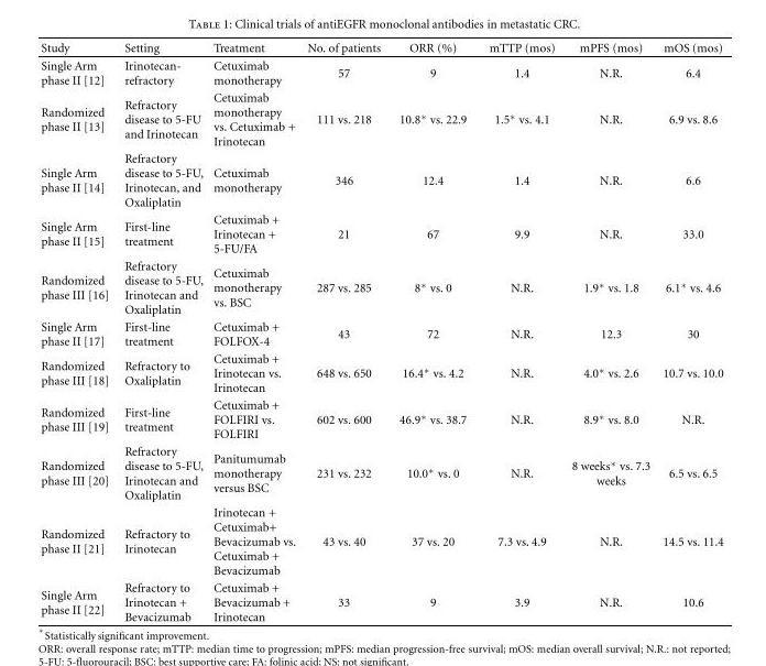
<table><thead><tr><td>Study</td><td>Setting</td><td>Treatment</td><td>No. of patients</td><td>ORR (%)</td><td>mTTP (mos)</td><td>mPFS (mos)</td><td>mOS (mos)</td></tr></thead><tbody><tr><td>Single Arm phase II [12]</td><td>Irinotecan- refractory</td><td>Cetuximab monotherapy</td><td>57</td><td>9</td><td>1.4</td><td>N.R.</td><td>6.4</td></tr><tr><td>Randomized phase II [13]</td><td>Refractory disease to 5-FU and Irinotecan</td><td>Cetuximab monotherapy vs. Cetuximab + Irinotecan</td><td>111 vs. 218</td><td>10.8∗ vs. 22.9</td><td>1.5∗ vs. 4.1</td><td>N.R.</td><td>6.9 vs. 8.6</td></tr><tr><td>Single Arm phase II [14]</td><td>Refractory disease to 5-FU, Irinotecan, and Oxaliplatin</td><td>Cetuximab monotherapy</td><td>346</td><td>12.4</td><td>1.4</td><td>N.R.</td><td>6.6</td></tr><tr><td>Single Arm phase II [15]</td><td>First-line treatment</td><td>Cetuximab + Irinotecan + 5-FU/FA</td><td>21</td><td>67</td><td>9.9</td><td>N.R.</td><td>33.0</td></tr><tr><td>Randomized phase III [16]</td><td>Refractory disease to 5-FU, Irinotecan and Oxaliplatin</td><td>Cetuximab monotherapy vs. BSC</td><td>287 vs. 285</td><td>8∗ vs. 0</td><td>N.R.</td><td>1.9∗ vs. 1.8</td><td>6.1∗ vs. 4.6</td></tr><tr><td>Single Arm phase II [17]</td><td>First-line treatment</td><td>Cetuximab + FOLFOX-4</td><td>43</td><td>72</td><td>N.R.</td><td>12.3</td><td>30</td></tr><tr><td>Randomized phase III [18]</td><td>Refractory to Oxaliplatin</td><td>Cetuximab + Irinotecan vs. Irinotecan</td><td>648 vs. 650</td><td>16.4∗ vs. 4.2</td><td>N.R.</td><td>4.0∗ vs. 2.6</td><td>10.7 vs. 10.0</td></tr><tr><td>Randomized phase III [19]</td><td>First-line treatment</td><td>Cetuximab + FOLFIRI vs. FOLFIRI</td><td>602 vs. 600</td><td>46.9∗ vs. 38.7</td><td>N.R.</td><td>8.9∗ vs. 8.0</td><td>N.R.</td></tr><tr><td>Randomized phase III [20]</td><td>Refractory disease to 5-FU, Irinotecan and Oxaliplatin</td><td>Panitumumab monotherapy versus BSC</td><td>231 vs. 232</td><td>10.0∗ vs. 0</td><td>N.R.</td><td>8 weeks∗ vs. 7.3 weeks</td><td>6.5 vs. 6.5</td></tr><tr><td>Randomized phase II [21]</td><td>Refractory to Irinotecan</td><td>Irinotecan + Cetuximab+ Bevacizumab vs. Cetuximab + Bevacizumab</td><td>43 vs. 40</td><td>37 vs. 20</td><td>7.3 vs. 4.9</td><td>N.R.</td><td>14.5 vs. 11.4</td></tr><tr><td>Single Arm phase II [22]</td><td>Refractory to Irinotecan + Bevacizumab</td><td>Cetuximab + Bevacizumab + Irinotecan</td><td>33</td><td>9</td><td>3.9</td><td>N.R.</td><td>10.6</td></tr></tbody></table>